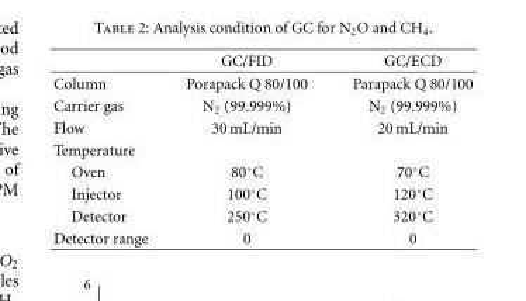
<table><thead><tr><td></td><td>GC/FID</td><td>GC/ECD</td></tr></thead><tbody><tr><td>Column</td><td>Porapack Q 80/100</td><td>Parapack Q 80/100</td></tr><tr><td>Carrier gas</td><td>N<sub>2</sub> (99.999%)</td><td>N<sub>2</sub> (99.999%)</td></tr><tr><td>Flow</td><td>30 mL/min</td><td>20 mL/min</td></tr><tr><td colspan="3">Temperature</td></tr><tr><td>Oven</td><td>80◦C</td><td>70◦C</td></tr><tr><td>Injector</td><td>100◦C</td><td>120◦C</td></tr><tr><td>Detector</td><td>250◦C</td><td>320◦C</td></tr><tr><td>Detector range</td><td>0</td><td>0</td></tr></tbody></table>